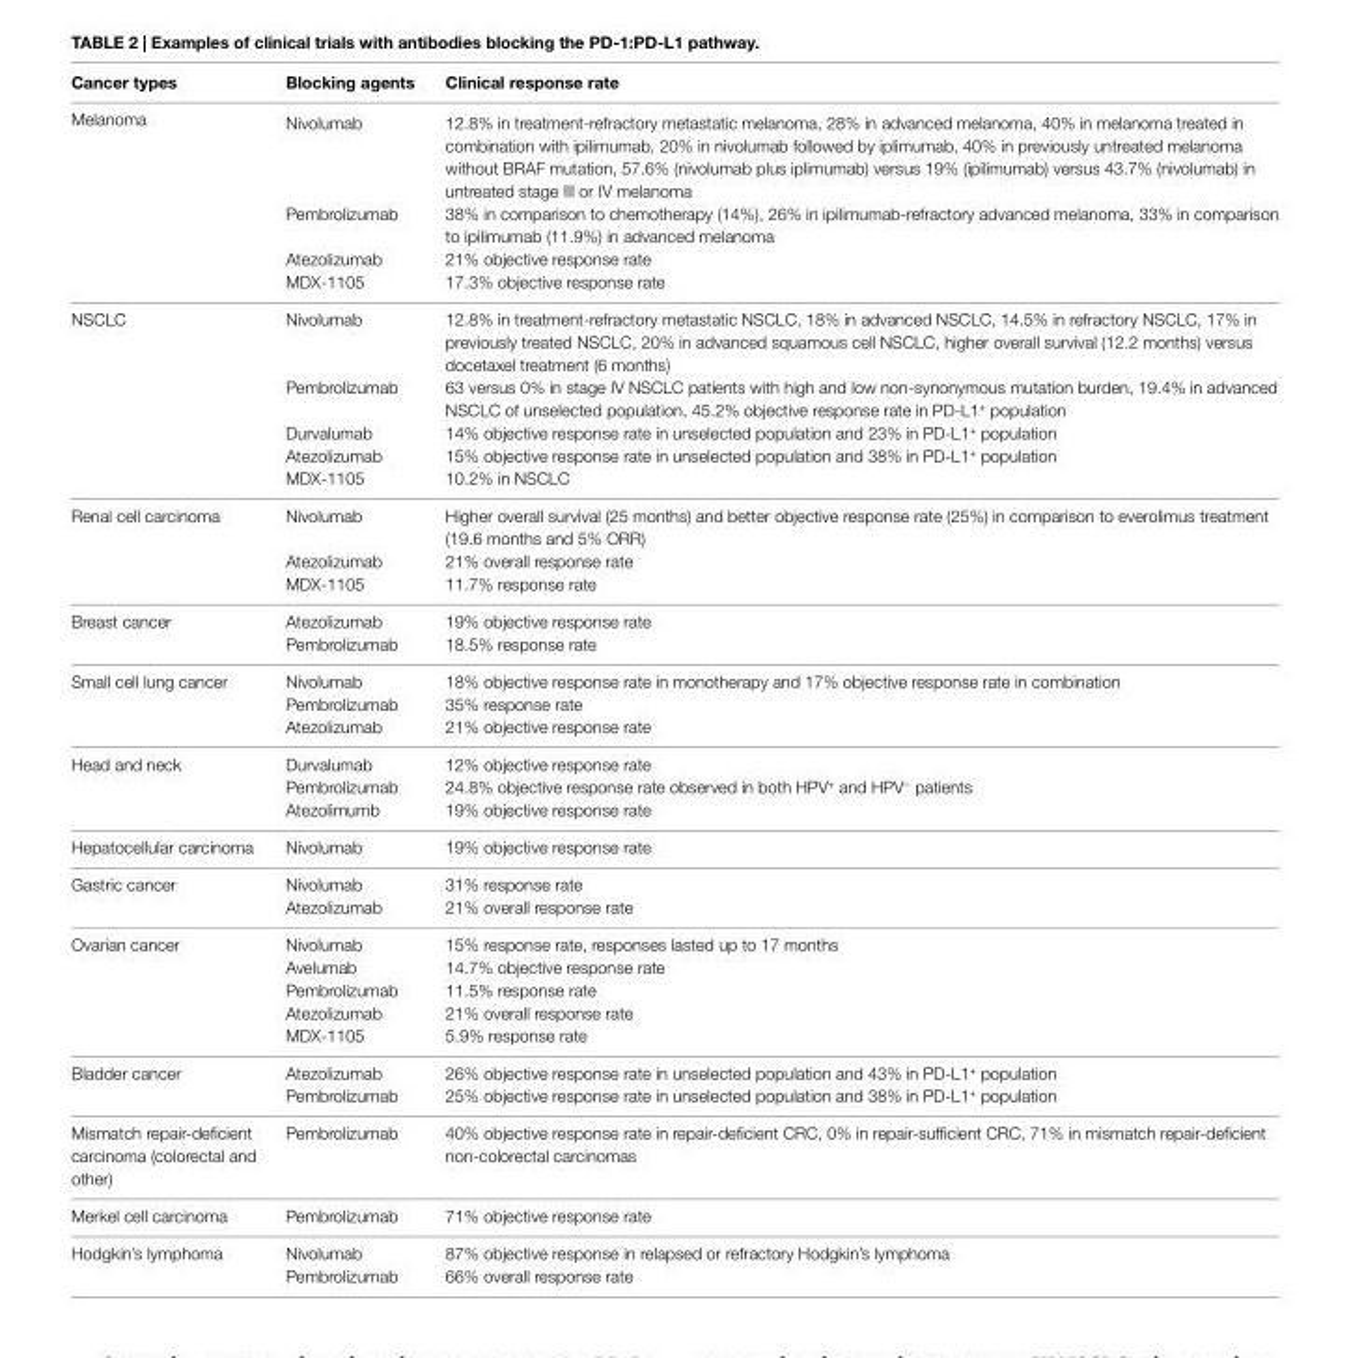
<table><thead><tr><td>Cancer types</td><td>Blocking agents</td><td>Clinical response rate</td></tr></thead><tbody><tr><td rowspan="4">Melanoma</td><td>Nivolumab</td><td>12.8% in treatment-refractory metastatic melanoma, 28% in advanced melanoma, 40% in melanoma treated in combination with ipilimumab, 20% in nivolumab followed by iplimumab, 40% in previously untreated melanoma without BRAF mutation, 57.6% (nivolumab plus iplimumab) versus 19% (ipilimumab) versus 43.7% (nivolumab) in untreated stage III or IV melanoma</td></tr><tr><td>Pembrolizumab</td><td>38% in comparison to chemotherapy (14%), 26% in ipilimumab-refractory advanced melanoma, 33% in comparison to ipilimumab (11.9%) in advanced melanoma</td></tr><tr><td>Atezolizumab</td><td>21% objective response rate</td></tr><tr><td>MDX-1105</td><td>17.3% objective response rate</td></tr><tr><td rowspan="5">NSCLC</td><td>Nivolumab</td><td>12.8% in treatment-refractory metastatic NSCLC, 18% in advanced NSCLC, 14.5% in refractory NSCLC, 17% in previously treated NSCLC, 20% in advanced squamous cell NSCLC, higher overall survival (12.2 months) versus docetaxel treatment (6 months)</td></tr><tr><td>Pembrolizumab</td><td>63 versus 0% in stage IV NSCLC patients with high and low non-synonymous mutation burden, 19.4% in advanced NSCLC of unselected population, 45.2% objective response rate in PD-L1<sup>+</sup> population</td></tr><tr><td>Durvalumab</td><td>14% objective response rate in unselected population and 23% in PD-L1<sup>+</sup> population</td></tr><tr><td>Atezolizumab</td><td>15% objective response rate in unselected population and 38% in PD-L1<sup>+</sup> population</td></tr><tr><td>MDX-1105</td><td>10.2% in NSCLC</td></tr><tr><td rowspan="3">Renal cell carcinoma</td><td>Nivolumab</td><td>Higher overall survival (25 months) and better objective response rate (25%) in comparison to everolimus treatment (19.6 months and 5% ORR)</td></tr><tr><td>Atezolizumab</td><td>21% overall response rate</td></tr><tr><td>MDX-1105</td><td>11.7% response rate</td></tr><tr><td rowspan="2">Breast cancer</td><td>Atezolizumab</td><td>19% objective response rate</td></tr><tr><td>Pembrolizumab</td><td>18.5% response rate</td></tr><tr><td rowspan="3">Small cell lung cancer</td><td>Nivolumab</td><td>18% objective response rate in monotherapy and 17% objective response rate in combination</td></tr><tr><td>Pembrolizumab</td><td>35% response rate</td></tr><tr><td>Atezolizumab</td><td>21% objective response rate</td></tr><tr><td rowspan="3">Head and neck</td><td>Durvalumab</td><td>12% objective response rate</td></tr><tr><td>Pembrolizumab</td><td>24.8% objective response rate observed in both HPV<sup>+</sup> and HPV<sup>−</sup> patients</td></tr><tr><td>Atezolimumb</td><td>19% objective response rate</td></tr><tr><td>Hepatocellular carcinoma</td><td>Nivolumab</td><td>19% objective response rate</td></tr><tr><td rowspan="2">Gastric cancer</td><td>Nivolumab</td><td>31% response rate</td></tr><tr><td>Atezolizumab</td><td>21% overall response rate</td></tr><tr><td rowspan="5">Ovarian cancer</td><td>Nivolumab</td><td>15% response rate, responses lasted up to 17 months</td></tr><tr><td>Avelumab</td><td>14.7% objective response rate</td></tr><tr><td>Pembrolizumab</td><td>11.5% response rate</td></tr><tr><td>Atezolizumab</td><td>21% overall response rate</td></tr><tr><td>MDX-1105</td><td>5.9% response rate</td></tr><tr><td rowspan="2">Bladder cancer</td><td>Atezolizumab</td><td>26% objective response rate in unselected population and 43% in PD-L1<sup>+</sup> population</td></tr><tr><td>Pembrolizumab</td><td>25% objective response rate in unselected population and 38% in PD-L1<sup>+</sup> population</td></tr><tr><td>Mismatch repair-deficient carcinoma (colorectal and other)</td><td>Pembrolizumab</td><td>40% objective response rate in repair-deficient CRC, 0% in repair-sufficient CRC, 71% in mismatch repair-deficient non-colorectal carcinomas</td></tr><tr><td>Merkel cell carcinoma</td><td>Pembrolizumab</td><td>71% objective response rate</td></tr><tr><td rowspan="2">Hodgkin’s lymphoma</td><td>Nivolumab</td><td>87% objective response in relapsed or refractory Hodgkin’s lymphoma</td></tr><tr><td>Pembrolizumab</td><td>66% overall response rate</td></tr></tbody></table>